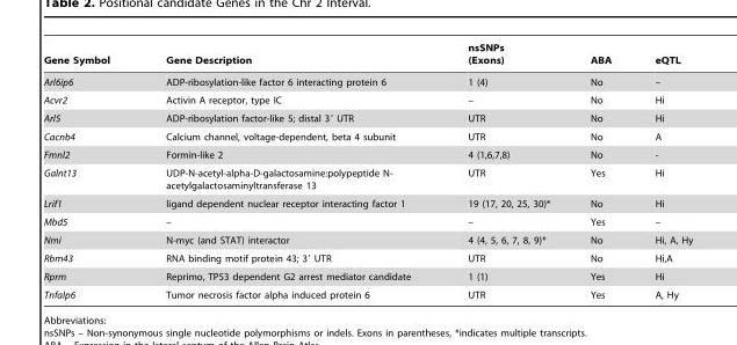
<table><thead><tr><td>Gene Symbol</td><td>Gene Description</td><td>nsSNPs (Exons)</td><td>ABA</td><td>eQTL</td></tr></thead><tbody><tr><td>Arl6ip6</td><td>ADP-ribosylation-like factor 6 interacting protein 6</td><td>1 (4)</td><td>No</td><td>–</td></tr><tr><td>Acvr2</td><td>Activin A receptor, type IC</td><td>–</td><td>No</td><td>Hi</td></tr><tr><td>Arl5</td><td>ADP-ribosylation factor-like 5; distal 3′ UTR</td><td>UTR</td><td>No</td><td>Hi</td></tr><tr><td>Cacnb4</td><td>Calcium channel, voltage-dependent, beta 4 subunit</td><td>UTR</td><td>No</td><td>A</td></tr><tr><td>Fmnl2</td><td>Formin-like 2</td><td>4 (1,6,7,8)</td><td>No</td><td>-</td></tr><tr><td>Galnt13</td><td>UDP-N-acetyl-alpha-D-galactosamine:polypeptide N- acetylgalactosaminyltransferase 13</td><td>UTR</td><td>Yes</td><td>Hi</td></tr><tr><td>Lrif1</td><td>ligand dependent nuclear receptor interacting factor 1</td><td>19 (17, 20, 25, 30)*</td><td>No</td><td>Hi</td></tr><tr><td>Mbd5</td><td>–</td><td>–</td><td>Yes</td><td>–</td></tr><tr><td>Nmi</td><td>N-myc (and STAT) interactor</td><td>4 (4, 5, 6, 7, 8, 9)*</td><td>No</td><td>Hi, A, Hy</td></tr><tr><td>Rbm43</td><td>RNA binding motif protein 43; 3′ UTR</td><td>UTR</td><td>No</td><td>Hi,A</td></tr><tr><td>Rprm</td><td>Reprimo, TP53 dependent G2 arrest mediator candidate</td><td>1 (1)</td><td>Yes</td><td>Hi</td></tr><tr><td>Tnfalp6</td><td>Tumor necrosis factor alpha induced protein 6</td><td>UTR</td><td>Yes</td><td>A, Hy</td></tr></tbody></table>